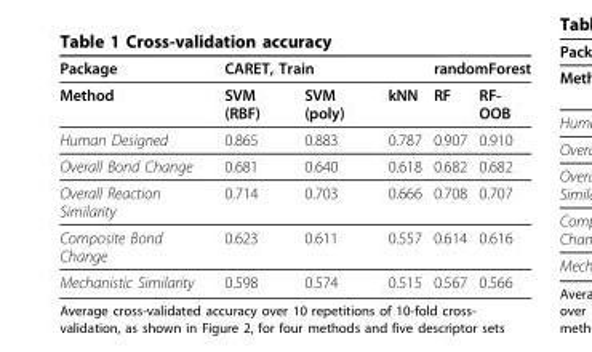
<table><thead><tr><td rowspan="2">Package Method</td><td colspan="3">CARET, Train</td><td colspan="2">randomForest</td></tr><tr><td>SVM (RBF)</td><td>SVM (poly)</td><td>kNN</td><td>RF</td><td>RF- OOB</td></tr></thead><tbody><tr><td>Human Designed</td><td>0.865</td><td>0.883</td><td>0.787</td><td>0.907</td><td>0.910</td></tr><tr><td>Overall Bond Change</td><td>0.681</td><td>0.640</td><td>0.618</td><td>0.682</td><td>0.682</td></tr><tr><td>Overall Reaction Similarity</td><td>0.714</td><td>0.703</td><td>0.666</td><td>0.708</td><td>0.707</td></tr><tr><td>Composite Bond Change</td><td>0.623</td><td>0.611</td><td>0.557</td><td>0.614</td><td>0.616</td></tr><tr><td>Mechanistic Similarity</td><td>0.598</td><td>0.574</td><td>0.515</td><td>0.567</td><td>0.566</td></tr></tbody></table>